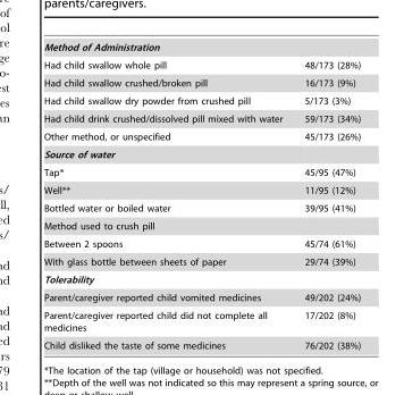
<table><tbody><tr><td colspan="2">Method of Administration</td></tr><tr><td>Had child swallow whole pill</td><td>48/173 (28%)</td></tr><tr><td>Had child swallow crushed/broken pill</td><td>16/173 (9%)</td></tr><tr><td>Had child swallow dry powder from crushed pill</td><td>5/173 (3%)</td></tr><tr><td>Had child drink crushed/dissolved pill mixed with water</td><td>59/173 (34%)</td></tr><tr><td>Other method, or unspecified</td><td>45/173 (26%)</td></tr><tr><td colspan="2">Source of water</td></tr><tr><td>Tap*</td><td>45/95 (47%)</td></tr><tr><td>Well**</td><td>11/95 (12%)</td></tr><tr><td>Bottled water or boiled water</td><td>39/95 (41%)</td></tr><tr><td colspan="2">Method used to crush pill</td></tr><tr><td>Between 2 spoons</td><td>45/74 (61%)</td></tr><tr><td>With glass bottle between sheets of paper</td><td>29/74 (39%)</td></tr><tr><td colspan="2">Tolerability</td></tr><tr><td>Parent/caregiver reported child vomited medicines</td><td>49/202 (24%)</td></tr><tr><td>Parent/caregiver reported child did not complete all medicines</td><td>17/202 (8%)</td></tr><tr><td>Child disliked the taste of some medicines</td><td>76/202 (38%)</td></tr></tbody></table>